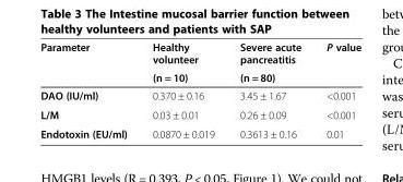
<table><thead><tr><td rowspan="2">Parameter</td><td rowspan="2">Healthy volunteer (n = 10)</td><td rowspan="2">Severe acute pancreatitis (n = 80)</td><td rowspan="2">P value</td></tr><tr></tr></thead><tbody><tr><td>DAO (IU/ml)</td><td>0.370 ± 0.16</td><td>3.45 ± 1.67</td><td>&lt;0.001</td></tr><tr><td>L/M</td><td>0.03 ± 0.01</td><td>0.26 ± 0.09</td><td>&lt;0.001</td></tr><tr><td>Endotoxin (EU/ml)</td><td>0.0870 ± 0.019</td><td>0.3613 ± 0.16</td><td>0.01</td></tr></tbody></table>